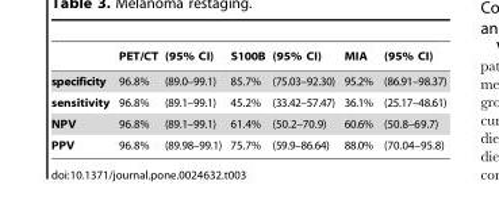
<table><thead><tr><td></td><td>PET/CT</td><td>(95% CI)</td><td>S100B</td><td>(95% CI)</td><td>MIA</td><td>(95% CI)</td></tr></thead><tbody><tr><td>specificity</td><td>96.8%</td><td>(89.0–99.1)</td><td>85.7%</td><td>(75.03–92.30)</td><td>95.2%</td><td>(86.91–98.37)</td></tr><tr><td>sensitivity</td><td>96.8%</td><td>(89.1–99.1)</td><td>45.2%</td><td>(33.42–57.47)</td><td>36.1%</td><td>(25.17–48.61)</td></tr><tr><td>NPV</td><td>96.8%</td><td>(89.1–99.1)</td><td>61.4%</td><td>(50.2–70.9)</td><td>60.6%</td><td>(50.8–69.7)</td></tr><tr><td>PPV</td><td>96.8%</td><td>(89.98–99.1)</td><td>75.7%</td><td>(59.9–86.64)</td><td>88.0%</td><td>(70.04–95.8)</td></tr></tbody></table>